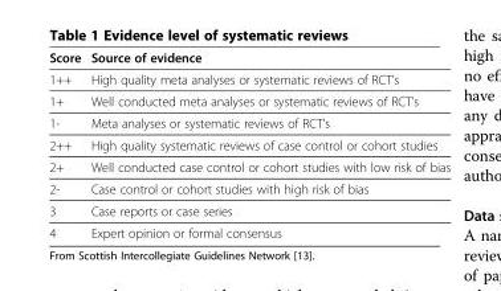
<table><thead><tr><td>Score</td><td>Source of evidence</td></tr></thead><tbody><tr><td>1++</td><td>High quality meta analyses or systematic reviews of RCT’s</td></tr><tr><td>1+</td><td>Well conducted meta analyses or systematic reviews of RCT’s</td></tr><tr><td>1-</td><td>Meta analyses or systematic reviews of RCT’s</td></tr><tr><td>2++</td><td>High quality systematic reviews of case control or cohort studies</td></tr><tr><td>2+</td><td>Well conducted case control or cohort studies with low risk of bias</td></tr><tr><td>2-</td><td>Case control or cohort studies with high risk of bias</td></tr><tr><td>3</td><td>Case reports or case series</td></tr><tr><td>4</td><td>Expert opinion or formal consensus</td></tr></tbody></table>